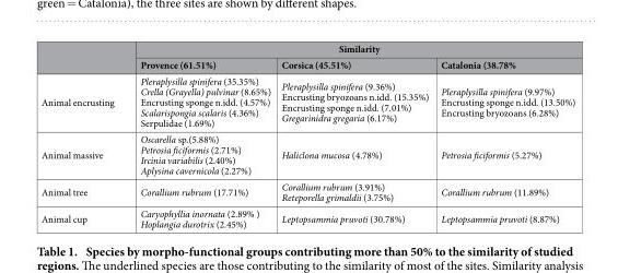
<table><thead><tr><td rowspan="2"></td><td colspan="3">Similarity</td></tr><tr><td>Provence (61.51%)</td><td>Corsica (45.51%)</td><td>Catalonia (38.78%</td></tr></thead><tbody><tr><td>Animal encrusting</td><td>Pleraplysilla spinifera (35.35%) Crella (Grayella) pulvinar (8.65%) Encrusting sponge n.idd. (4.57%) Scalarispongia scalaris (4.36%) Serpulidae (1.69%)</td><td>Pleraplysilla spinifera (9.36%) Encrusting bryozoans n.idd. (15.35%) Encrusting sponge n.idd. (7.01%) Gregarinidra gregaria (6.17%)</td><td>Pleraplysilla spinifera (9.97%) Encrusting sponge n.idd. (13.50%) Encrusting bryozoans (6.28%)</td></tr><tr><td>Animal massive</td><td>Oscarella sp.(5.88%) Petrosia ficiformis (2.71%) Ircinia variabilis (2.40%) Aplysina cavernicola (2.27%)</td><td>Haliclona mucosa (4.78%)</td><td>Petrosia ficiformis (5.27%)</td></tr><tr><td>Animal tree</td><td>Corallium rubrum (17.71%)</td><td>Corallium rubrum (3.91%) Reteporella grimaldii (3.75%)</td><td>Corallium rubrum (11.89%)</td></tr><tr><td>Animal cup</td><td>Caryophyllia inornata (2.89% ) Hoplangia durotrix (2.45%)</td><td>Leptopsammia pruvoti (30.78%)</td><td>Leptopsammia pruvoti (8.87%)</td></tr></tbody></table>